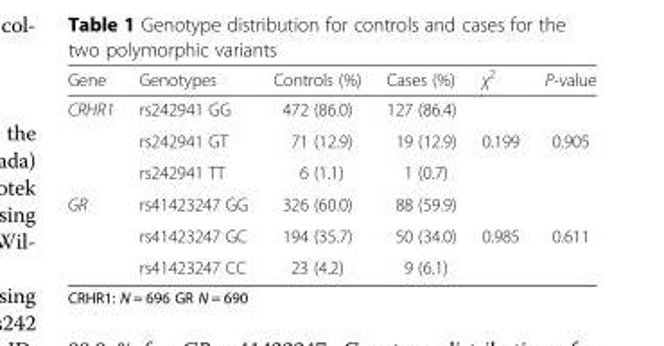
<table><thead><tr><td>Gene</td><td>Genotypes</td><td>Controls (%)</td><td>Cases (%)</td><td>χ<sup>2</sup></td><td>P-value</td></tr></thead><tbody><tr><td rowspan="3">CRHR1</td><td>rs242941 GG</td><td>472 (86.0)</td><td>127 (86.4)</td><td></td><td></td></tr><tr><td>rs242941 GT</td><td>71 (12.9)</td><td>19 (12.9)</td><td>0.199</td><td>0.905</td></tr><tr><td>rs242941 TT</td><td>6 (1.1)</td><td>1 (0.7)</td><td></td><td></td></tr><tr><td rowspan="3">GR</td><td>rs41423247 GG</td><td>326 (60.0)</td><td>88 (59.9)</td><td></td><td></td></tr><tr><td>rs41423247 GC</td><td>194 (35.7)</td><td>50 (34.0)</td><td>0.985</td><td>0.611</td></tr><tr><td>rs41423247 CC</td><td>23 (4.2)</td><td>9 (6.1)</td><td></td><td></td></tr></tbody></table>